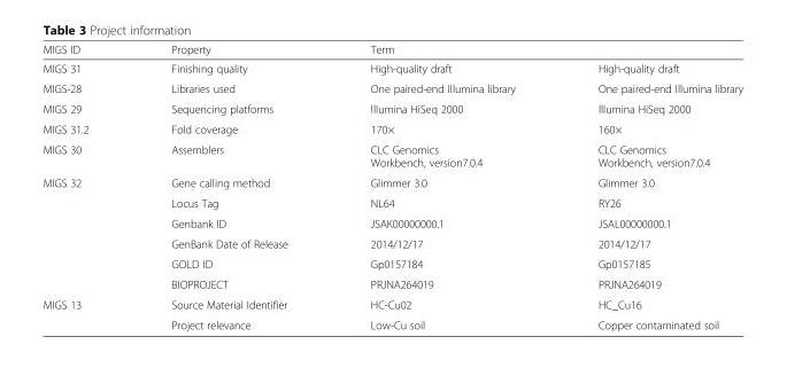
<table><thead><tr><td rowspan="2">MIGS ID MIGS 31</td><td rowspan="2">Property Finishing quality</td><td colspan="2">Term</td></tr><tr><td>High-quality draft</td><td>High-quality draft</td></tr></thead><tbody><tr><td>MIGS-28</td><td>Libraries used</td><td>One paired-end Illumina library</td><td>One paired-end Illumina library</td></tr><tr><td>MIGS 29</td><td>Sequencing platforms</td><td>llIumina HiSeq 2000</td><td>llIumina HiSeq 2000</td></tr><tr><td>MIGS 31.2</td><td>Fold coverage</td><td>170×</td><td>160×</td></tr><tr><td>MIGS 30</td><td>Assemblers</td><td>CLC Genomics Workbench, version7.0.4</td><td>CLC Genomics Workbench, version7.0.4</td></tr><tr><td rowspan="6">MIGS 32</td><td>Gene calling method</td><td>Glimmer 3.0</td><td>Glimmer 3.0</td></tr><tr><td>Locus Tag</td><td>NL64</td><td>RY26</td></tr><tr><td>Genbank ID</td><td>JSAK00000000.1</td><td>JSAL00000000.1</td></tr><tr><td>GenBank Date of Release</td><td>2014/12/17</td><td>2014/12/17</td></tr><tr><td>GOLD ID</td><td>Gp0157184</td><td>Gp0157185</td></tr><tr><td>BIOPROJECT</td><td>PRJNA264019</td><td>PRJNA264019</td></tr><tr><td rowspan="2">MIGS 13</td><td>Source Material Identifier</td><td>HC-Cu02</td><td>HC_Cu16</td></tr><tr><td>Project relevance</td><td>Low-Cu soil</td><td>Copper contaminated soil</td></tr></tbody></table>